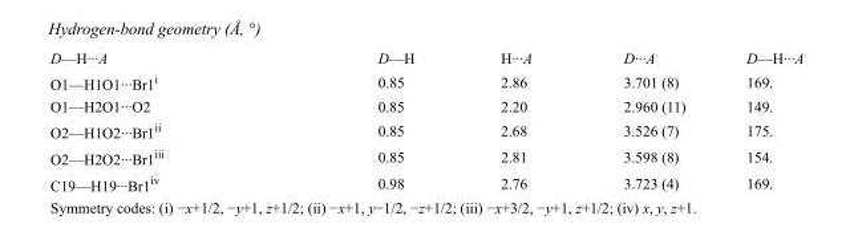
<table><tbody><tr><td>D—H···A</td><td>D—H</td><td>H···A</td><td>D···A</td><td>D—H···A</td></tr><tr><td>O1—H1O1···Br1<sup>i</sup></td><td>0.85</td><td>2.86</td><td>3.701 (8)</td><td>169.</td></tr><tr><td>O1—H2O1···O2</td><td>0.85</td><td>2.20</td><td>2.960 (11)</td><td>149.</td></tr><tr><td>O2—H1O2···Br1<sup>ii</sup></td><td>0.85</td><td>2.68</td><td>3.526 (7)</td><td>175.</td></tr><tr><td>O2—H2O2···Br1<sup>iii</sup></td><td>0.85</td><td>2.81</td><td>3.598 (8)</td><td>154.</td></tr><tr><td>C19—H19···Br1<sup>iv</sup></td><td>0.98</td><td>2.76</td><td>3.723 (4)</td><td>169.</td></tr></tbody></table>